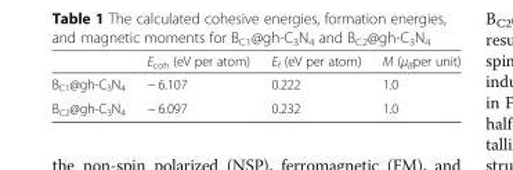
<table><thead><tr><td></td><td>E<sub>coh</sub> (eV per atom)</td><td>E<sub>f</sub> (eV per atom)</td><td>M (μ<sub>B</sub>per unit)</td></tr></thead><tbody><tr><td>B<sub>C1</sub>@gh-C<sub>3</sub>N<sub>4</sub></td><td>− 6.107</td><td>0.222</td><td>1.0</td></tr><tr><td>B<sub>C2</sub>@gh-C<sub>3</sub>N<sub>4</sub></td><td>− 6.097</td><td>0.232</td><td>1.0</td></tr></tbody></table>